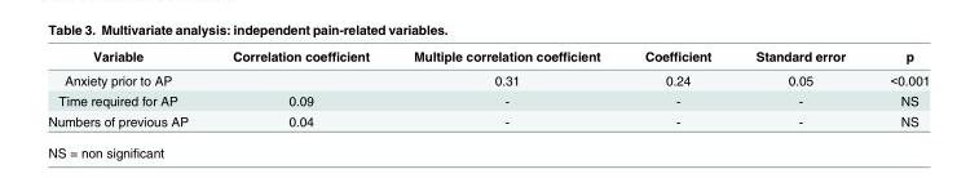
<table><thead><tr><td>Variable</td><td>Correlation coefficient</td><td>Multiple correlation coefficient</td><td>Coefficient</td><td>Standard error</td><td>p</td></tr></thead><tbody><tr><td>Anxiety prior to AP</td><td></td><td>0.31</td><td>0.24</td><td>0.05</td><td>&lt;0.001</td></tr><tr><td>Time required for AP</td><td>0.09</td><td>-</td><td>-</td><td>-</td><td>NS</td></tr><tr><td>Numbers of previous AP</td><td>0.04</td><td>-</td><td>-</td><td>-</td><td>NS</td></tr></tbody></table>